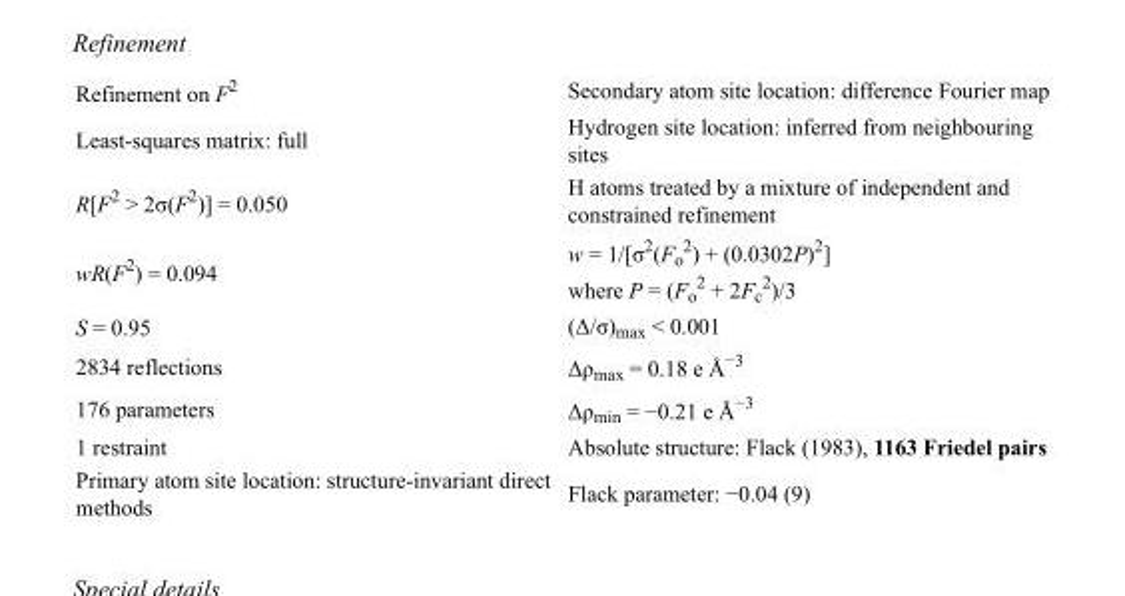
<table><tbody><tr><td>Refinement on F<sup>2</sup></td><td>Secondary atom site location: difference Fourier map</td></tr><tr><td>Least-squares matrix: full</td><td>Hydrogen site location: inferred from neighbouring sites</td></tr><tr><td>R[F<sup>2</sup> &gt; 2σ(F<sup>2</sup>)] = 0.050</td><td>H atoms treated by a mixture of independent and constrained refinement</td></tr><tr><td>wR(F<sup>2</sup>) = 0.094</td><td>w = 1/[σ<sup>2</sup>(F<sub>o</sub> <sup>2</sup>) + (0.0302P)<sup>2</sup>] where P = (F<sub>o</sub> <sup>2</sup> + 2F<sub>c</sub> <sup>2</sup>)/3</td></tr><tr><td>S = 0.95</td><td>(Δ/σ)<sub>max</sub> &lt; 0.001</td></tr><tr><td>2834 reflections</td><td>Δρ<sub>max</sub> = 0.18 e Å<sup>−3</sup></td></tr><tr><td>176 parameters</td><td>Δρ<sub>min</sub> = −0.21 e Å<sup>−3</sup></td></tr><tr><td>1 restraint</td><td>Absolute structure: Flack (1983), 1163 Friedel pairs</td></tr><tr><td>Primary atom site location: structure-invariant direct methods</td><td>Flack parameter: −0.04 (9)</td></tr></tbody></table>